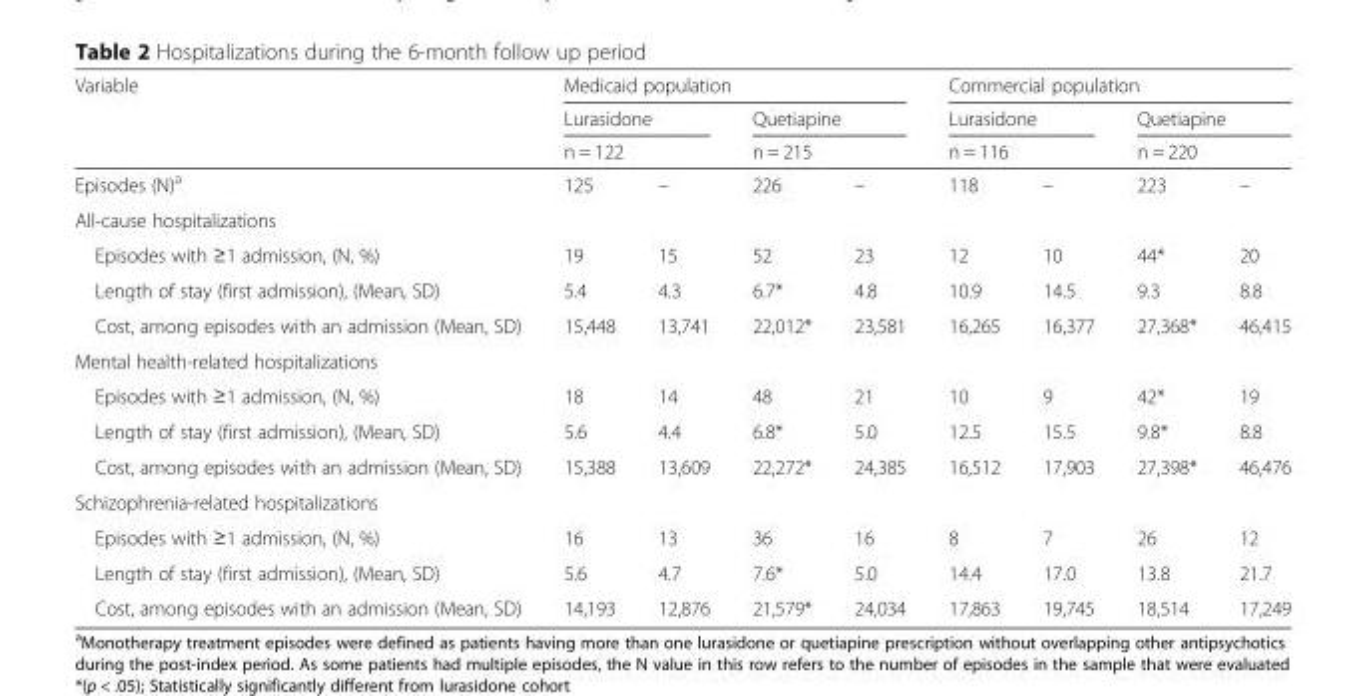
<table><thead><tr><td rowspan="4">Variable Episodes (N)<sup>a</sup></td><td colspan="4">Medicaid population</td><td colspan="4">Commercial population</td></tr><tr><td rowspan="2" colspan="2">Lurasidone n = 122</td><td rowspan="2" colspan="2">Quetiapine n = 215</td><td rowspan="2" colspan="2">Lurasidone n = 116</td><td rowspan="2" colspan="2">Quetiapine n = 220</td></tr><tr></tr><tr><td>125</td><td>–</td><td>226</td><td>–</td><td>118</td><td>–</td><td>223</td><td>–</td></tr></thead><tbody><tr><td colspan="9">All-cause hospitalizations</td></tr><tr><td>Episodes with ≥1 admission, (N, %)</td><td>19</td><td>15</td><td>52</td><td>23</td><td>12</td><td>10</td><td>44*</td><td>20</td></tr><tr><td>Length of stay (first admission), (Mean, SD)</td><td>5.4</td><td>4.3</td><td>6.7*</td><td>4.8</td><td>10.9</td><td>14.5</td><td>9.3</td><td>8.8</td></tr><tr><td>Cost, among episodes with an admission (Mean, SD)</td><td>15,448</td><td>13,741</td><td>22,012*</td><td>23,581</td><td>16,265</td><td>16,377</td><td>27,368*</td><td>46,415</td></tr><tr><td colspan="9">Mental health-related hospitalizations</td></tr><tr><td>Episodes with ≥1 admission, (N, %)</td><td>18</td><td>14</td><td>48</td><td>21</td><td>10</td><td>9</td><td>42*</td><td>19</td></tr><tr><td>Length of stay (first admission), (Mean, SD)</td><td>5.6</td><td>4.4</td><td>6.8*</td><td>5.0</td><td>12.5</td><td>15.5</td><td>9.8*</td><td>8.8</td></tr><tr><td>Cost, among episodes with an admission (Mean, SD)</td><td>15,388</td><td>13,609</td><td>22,272*</td><td>24,385</td><td>16,512</td><td>17,903</td><td>27,398*</td><td>46,476</td></tr><tr><td colspan="9">Schizophrenia-related hospitalizations</td></tr><tr><td>Episodes with ≥1 admission, (N, %)</td><td>16</td><td>13</td><td>36</td><td>16</td><td>8</td><td>7</td><td>26</td><td>12</td></tr><tr><td>Length of stay (first admission), (Mean, SD)</td><td>5.6</td><td>4.7</td><td>7.6*</td><td>5.0</td><td>14.4</td><td>17.0</td><td>13.8</td><td>21.7</td></tr><tr><td>Cost, among episodes with an admission (Mean, SD)</td><td>14,193</td><td>12,876</td><td>21,579*</td><td>24,034</td><td>17,863</td><td>19,745</td><td>18,514</td><td>17,249</td></tr></tbody></table>